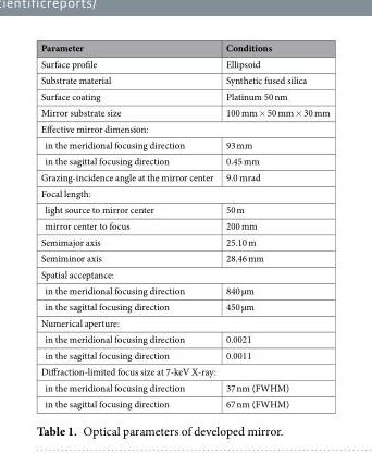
<table><thead><tr><td>Parameter</td><td>Conditions</td></tr></thead><tbody><tr><td>Surface profile</td><td>Ellipsoid</td></tr><tr><td>Substrate material</td><td>Synthetic fused silica</td></tr><tr><td>Surface coating</td><td>Platinum 50 nm</td></tr><tr><td>Mirror substrate size</td><td>100 mm × 50 mm × 30 mm</td></tr><tr><td colspan="2">Effective mirror dimension:</td></tr><tr><td>in the meridional focusing direction</td><td>93 mm</td></tr><tr><td>in the sagittal focusing direction</td><td>0.45 mm</td></tr><tr><td>Grazing-incidence angle at the mirror center</td><td>9.0 mrad</td></tr><tr><td colspan="2">Focal length:</td></tr><tr><td>light source to mirror center</td><td>50 m</td></tr><tr><td>mirror center to focus</td><td>200 mm</td></tr><tr><td>Semimajor axis</td><td>25.10 m</td></tr><tr><td>Semiminor axis</td><td>28.46 mm</td></tr><tr><td colspan="2">Spatial acceptance:</td></tr><tr><td>in the meridional focusing direction</td><td>840 µm</td></tr><tr><td>in the sagittal focusing direction</td><td>450 µm</td></tr><tr><td colspan="2">Numerical aperture:</td></tr><tr><td>in the meridional focusing direction</td><td>0.0021</td></tr><tr><td>in the sagittal focusing direction</td><td>0.0011</td></tr><tr><td colspan="2">Diffraction-limited focus size at 7-keV X-ray:</td></tr><tr><td>in the meridional focusing direction</td><td>37 nm (FWHM)</td></tr><tr><td>in the sagittal focusing direction</td><td>67 nm (FWHM)</td></tr></tbody></table>